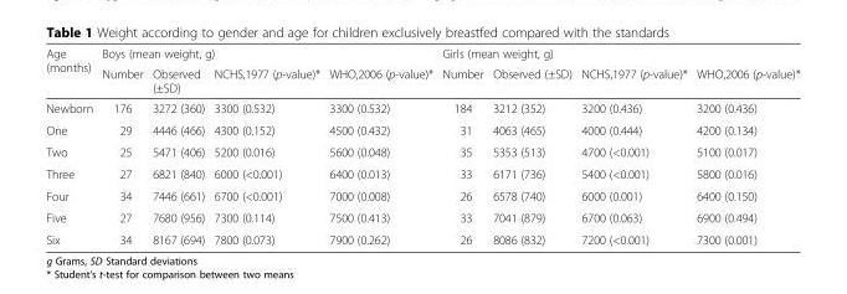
<table><thead><tr><td rowspan="2">Age (months)</td><td colspan="4">Boys (mean weight, g)</td><td colspan="4">Girls (mean weight, g)</td></tr><tr><td>Number</td><td>Observed (±SD)</td><td>NCHS,1977 (p-value)*</td><td>WHO,2006 (p-value)*</td><td>Number</td><td>Observed (±SD)</td><td>NCHS,1977 (p-value)*</td><td>WHO,2006 (p-value)*</td></tr></thead><tbody><tr><td>Newborn</td><td>176</td><td>3272 (360)</td><td>3300 (0.532)</td><td>3300 (0.532)</td><td>184</td><td>3212 (352)</td><td>3200 (0.436)</td><td>3200 (0.436)</td></tr><tr><td>One</td><td>29</td><td>4446 (466)</td><td>4300 (0.152)</td><td>4500 (0.432)</td><td>31</td><td>4063 (465)</td><td>4000 (0.444)</td><td>4200 (0.134)</td></tr><tr><td>Two</td><td>25</td><td>5471 (406)</td><td>5200 (0.016)</td><td>5600 (0.048)</td><td>35</td><td>5353 (513)</td><td>4700 (&lt;0.001)</td><td>5100 (0.017)</td></tr><tr><td>Three</td><td>27</td><td>6821 (840)</td><td>6000 (&lt;0.001)</td><td>6400 (0.013)</td><td>33</td><td>6171 (736)</td><td>5400 (&lt;0.001)</td><td>5800 (0.016)</td></tr><tr><td>Four</td><td>34</td><td>7446 (661)</td><td>6700 (&lt;0.001)</td><td>7000 (0.008)</td><td>26</td><td>6578 (740)</td><td>6000 (0.001)</td><td>6400 (0.150)</td></tr><tr><td>Five</td><td>27</td><td>7680 (956)</td><td>7300 (0.114)</td><td>7500 (0.413)</td><td>33</td><td>7041 (879)</td><td>6700 (0.063)</td><td>6900 (0.494)</td></tr><tr><td>Six</td><td>34</td><td>8167 (694)</td><td>7800 (0.073)</td><td>7900 (0.262)</td><td>26</td><td>8086 (832)</td><td>7200 (&lt;0.001)</td><td>7300 (0.001)</td></tr></tbody></table>